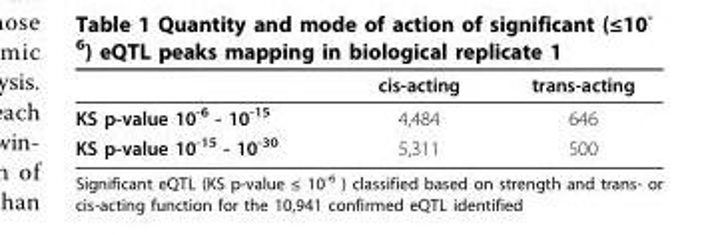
<table><thead><tr><td></td><td>cis-acting</td><td>trans-acting</td></tr></thead><tbody><tr><td>KS p-value 10<sup>-6</sup> - 10<sup>-15</sup></td><td>4,484</td><td>646</td></tr><tr><td>KS p-value 10<sup>-15</sup> - 10<sup>-30</sup></td><td>5,311</td><td>500</td></tr></tbody></table>